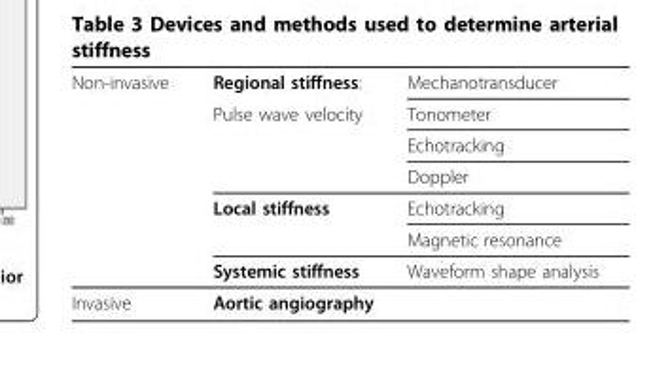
<table><thead><tr><td rowspan="7">Non-invasive</td><td rowspan="7">Regional stiffness: Pulse wave velocity Local stiffness Systemic stiffness</td><td rowspan="7">Mechanotransducer Tonometer Echotracking Doppler Echotracking Magnetic resonance Waveform shape analysis</td></tr><tr></tr><tr></tr><tr></tr><tr></tr><tr></tr><tr></tr></thead><tbody><tr><td>Invasive</td><td colspan="2">Aortic angiography</td></tr></tbody></table>